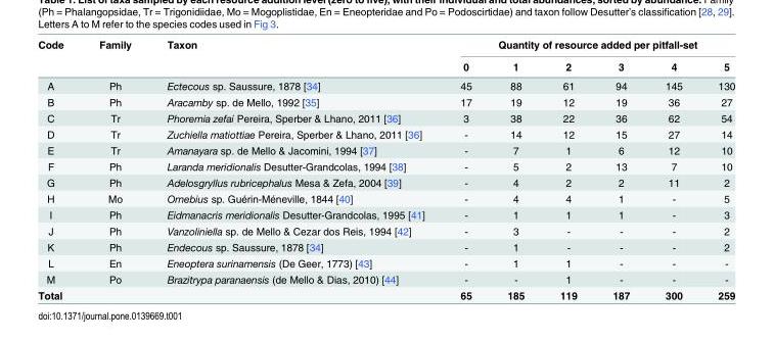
<table><thead><tr><td rowspan="2">Code</td><td rowspan="2">Family</td><td rowspan="2">Taxon</td><td colspan="6">Quantity of resource added per pitfall-set</td></tr><tr><td>0</td><td>1</td><td>2</td><td>3</td><td>4</td><td>5</td></tr></thead><tbody><tr><td>A</td><td>Ph</td><td>Ectecous sp. Saussure, 1878 [34]</td><td>45</td><td>88</td><td>61</td><td>94</td><td>145</td><td>130</td></tr><tr><td>B</td><td>Ph</td><td>Aracamby sp. de Mello, 1992 [35]</td><td>17</td><td>19</td><td>12</td><td>19</td><td>36</td><td>27</td></tr><tr><td>C</td><td>Tr</td><td>Phoremia zefai Pereira, Sperber &amp; Lhano, 2011 [36]</td><td>3</td><td>38</td><td>22</td><td>36</td><td>62</td><td>54</td></tr><tr><td>D</td><td>Tr</td><td>Zuchiella matiottiae Pereira, Sperber &amp; Lhano, 2011 [36]</td><td>-</td><td>14</td><td>12</td><td>15</td><td>27</td><td>14</td></tr><tr><td>E</td><td>Tr</td><td>Amanayara sp. de Mello &amp; Jacomini, 1994 [37]</td><td>-</td><td>7</td><td>1</td><td>6</td><td>12</td><td>10</td></tr><tr><td>F</td><td>Ph</td><td>Laranda meridionalis Desutter-Grandcolas, 1994 [38]</td><td>-</td><td>5</td><td>2</td><td>13</td><td>7</td><td>10</td></tr><tr><td>G</td><td>Ph</td><td>Adelosgryllus rubricephalus Mesa &amp; Zefa, 2004 [39]</td><td>-</td><td>4</td><td>2</td><td>2</td><td>11</td><td>2</td></tr><tr><td>H</td><td>Mo</td><td>Ornebius sp. Guérin-Méneville, 1844 [40]</td><td>-</td><td>4</td><td>4</td><td>1</td><td>-</td><td>5</td></tr><tr><td>I</td><td>Ph</td><td>Eidmanacris meridionalis Desutter-Grandcolas, 1995 [41]</td><td>-</td><td>1</td><td>1</td><td>1</td><td>-</td><td>3</td></tr><tr><td>J</td><td>Ph</td><td>Vanzoliniella sp. de Mello &amp; Cezar dos Reis, 1994 [42]</td><td>-</td><td>3</td><td>-</td><td>-</td><td>-</td><td>2</td></tr><tr><td>K</td><td>Ph</td><td>Endecous sp. Saussure, 1878 [34]</td><td>-</td><td>1</td><td>-</td><td>-</td><td>-</td><td>2</td></tr><tr><td>L</td><td>En</td><td>Eneoptera surinamensis (De Geer, 1773) [43]</td><td>-</td><td>1</td><td>1</td><td>-</td><td>-</td><td>-</td></tr><tr><td>M</td><td>Po</td><td>Brazitrypa paranaensis (de Mello &amp; Dias, 2010) [44]</td><td>-</td><td>-</td><td>1</td><td>-</td><td>-</td><td>-</td></tr><tr><td colspan="3">Total</td><td>65</td><td>185</td><td>119</td><td>187</td><td>300</td><td>259</td></tr></tbody></table>